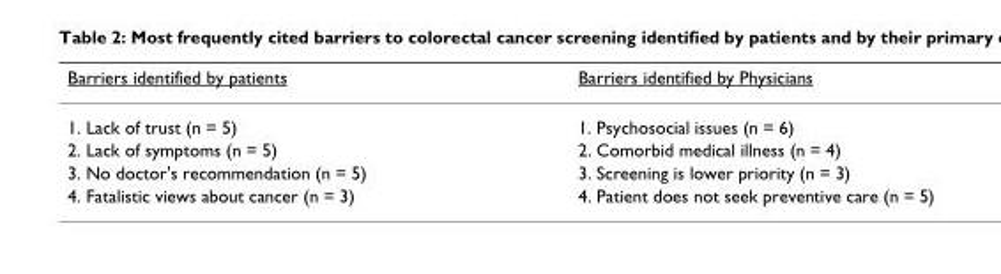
<table><thead><tr><td>Barriers identified by patients</td><td>Barriers identified by Physicians</td></tr></thead><tbody><tr><td>1. Lack of trust (n = 5)</td><td>1. Psychosocial issues (n = 6)</td></tr><tr><td>2. Lack of symptoms (n = 5)</td><td>2. Comorbid medical illness (n = 4)</td></tr><tr><td>3. No doctor&#x27;s recommendation (n = 5)</td><td>3. Screening is lower priority (n = 3)</td></tr><tr><td>4. Fatalistic views about cancer (n = 3)</td><td>4. Patient does not seek preventive care (n = 5)</td></tr></tbody></table>